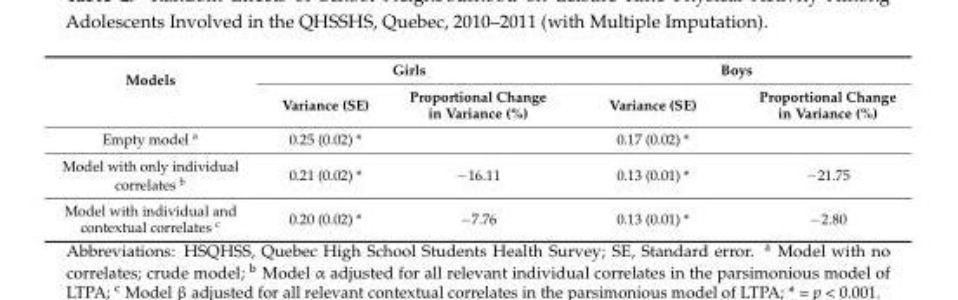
<table><thead><tr><td rowspan="2">Models</td><td colspan="2">Girls</td><td colspan="2">Boys</td></tr><tr><td>Variance (SE)</td><td>Proportional Change in Variance (%)</td><td>Variance (SE)</td><td>Proportional Change in Variance (%)</td></tr></thead><tbody><tr><td>Empty model <sup>a</sup></td><td>0.25 (0.02) *</td><td></td><td>0.17 (0.02) *</td><td></td></tr><tr><td>Model with only individual correlates <sup>b</sup></td><td>0.21 (0.02) *</td><td>−16.11</td><td>0.13 (0.01) *</td><td>−21.75</td></tr><tr><td>Model with individual and contextual correlates <sup>c</sup></td><td>0.20 (0.02) *</td><td>−7.76</td><td>0.13 (0.01) *</td><td>−2.80</td></tr></tbody></table>